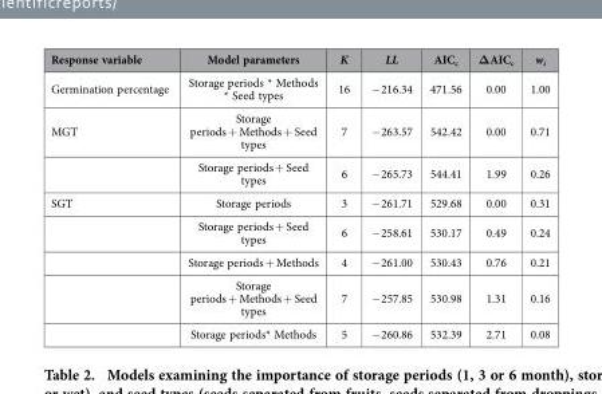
<table><thead><tr><td>Response variable</td><td>Model parameters</td><td>K</td><td>LL</td><td>AIC<sub>c</sub></td><td>ΔAIC<sub>c</sub></td><td>w<sub>i</sub></td></tr></thead><tbody><tr><td>Germination percentage</td><td>Storage periods * Methods * Seed types</td><td>16</td><td>− 216.34</td><td>471.56</td><td>0.00</td><td>1.00</td></tr><tr><td rowspan="2">MGT</td><td>Storage periods + Methods + Seed types</td><td>7</td><td>− 263.57</td><td>542.42</td><td>0.00</td><td>0.71</td></tr><tr><td>Storage periods + Seed types</td><td>6</td><td>− 265.73</td><td>544.41</td><td>1.99</td><td>0.26</td></tr><tr><td rowspan="5">SGT</td><td>Storage periods</td><td>3</td><td>− 261.71</td><td>529.68</td><td>0.00</td><td>0.31</td></tr><tr><td>Storage periods + Seed types</td><td>6</td><td>− 258.61</td><td>530.17</td><td>0.49</td><td>0.24</td></tr><tr><td>Storage periods + Methods</td><td>4</td><td>− 261.00</td><td>530.43</td><td>0.76</td><td>0.21</td></tr><tr><td>Storage periods + Methods + Seed types</td><td>7</td><td>− 257.85</td><td>530.98</td><td>1.31</td><td>0.16</td></tr><tr><td>Storage periods* Methods</td><td>5</td><td>− 260.86</td><td>532.39</td><td>2.71</td><td>0.08</td></tr></tbody></table>